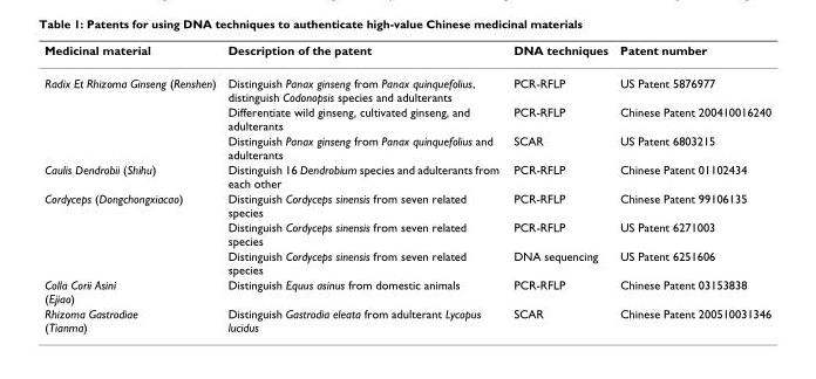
<table><thead><tr><td>Medicinal material</td><td>Description of the patent</td><td>DNA techniques</td><td>Patent number</td></tr></thead><tbody><tr><td rowspan="3">Radix Et Rhizoma Ginseng (Renshen)</td><td>Distinguish Panax ginseng from Panax quinquefolius, distinguish Codonopsis species and adulterants</td><td>PCR-RFLP</td><td>US Patent 5876977</td></tr><tr><td>Differentiate wild ginseng, cultivated ginseng, and adulterants</td><td>PCR-RFLP</td><td>Chinese Patent 200410016240</td></tr><tr><td>Distinguish Panax ginseng from Panax quinquefolius and adulterants</td><td>SCAR</td><td>US Patent 6803215</td></tr><tr><td>Caulis Dendrobii (Shihu)</td><td>Distinguish 16 Dendrobium species and adulterants from each other</td><td>PCR-RFLP</td><td>Chinese Patent 01102434</td></tr><tr><td rowspan="3">Cordyceps (Dongchongxiacao)</td><td>Distinguish Cordyceps sinensis from seven related species</td><td>PCR-RFLP</td><td>Chinese Patent 99106135</td></tr><tr><td>Distinguish Cordyceps sinensis from seven related species</td><td>PCR-RFLP</td><td>US Patent 6271003</td></tr><tr><td>Distinguish Cordyceps sinensis from seven related species</td><td>DNA sequencing</td><td>US Patent 6251606</td></tr><tr><td>Colla Corii Asini (Ejiao)</td><td>Distinguish Equus asinus from domestic animals</td><td>PCR-RFLP</td><td>Chinese Patent 03153838</td></tr><tr><td>Rhizoma Gastrodiae (Tianma)</td><td>Distinguish Gastrodia eleata from adulterant Lycopus lucidus</td><td>SCAR</td><td>Chinese Patent 200510031346</td></tr></tbody></table>